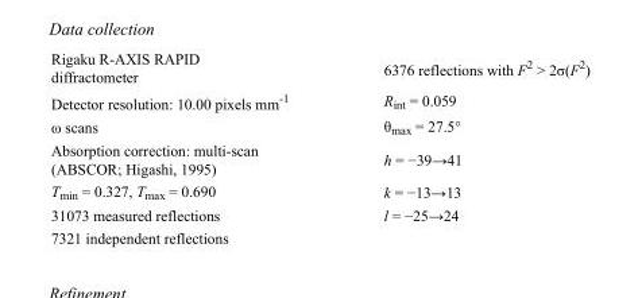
<table><tbody><tr><td>Rigaku R-AXIS RAPID diffractometer</td><td>6376 reflections with F<sup>2</sup> &gt; 2σ(F<sup>2</sup>)</td></tr><tr><td>Detector resolution: 10.00 pixels mm<sup>-1</sup></td><td>R<sub>int</sub> = 0.059</td></tr><tr><td>ω scans</td><td>θ<sub>max</sub> = 27.5°</td></tr><tr><td>Absorption correction: multi-scan (ABSCOR; Higashi, 1995)</td><td>h = −39→41</td></tr><tr><td>T<sub>min</sub> = 0.327, T<sub>max</sub> = 0.690</td><td>k = −13→13</td></tr><tr><td>31073 measured reflections</td><td>l = −25→24</td></tr><tr><td>7321 independent reflections</td><td></td></tr></tbody></table>